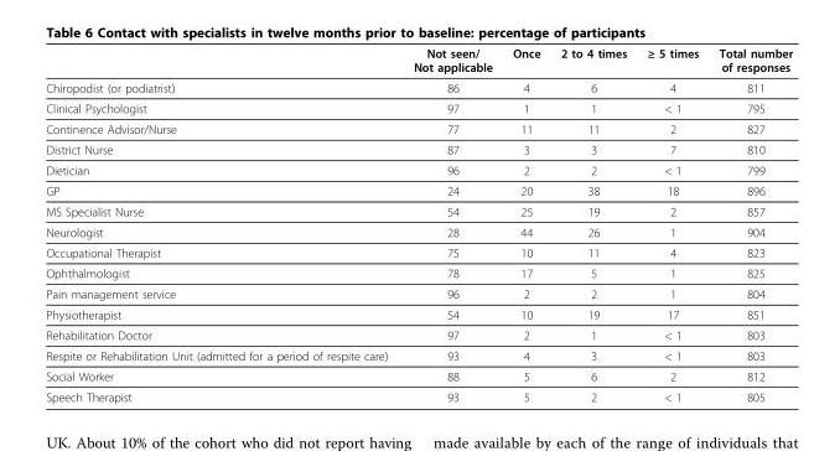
<table><thead><tr><td></td><td>Not seen/ Not applicable</td><td>Once</td><td>2 to 4 times</td><td>≥ 5 times</td><td>Total number of responses</td></tr></thead><tbody><tr><td>Chiropodist (or podiatrist)</td><td>86</td><td>4</td><td>6</td><td>4</td><td>811</td></tr><tr><td>Clinical Psychologist</td><td>97</td><td>1</td><td>1</td><td>&lt; 1</td><td>795</td></tr><tr><td>Continence Advisor/Nurse</td><td>77</td><td>11</td><td>11</td><td>2</td><td>827</td></tr><tr><td>District Nurse</td><td>87</td><td>3</td><td>3</td><td>7</td><td>810</td></tr><tr><td>Dietician</td><td>96</td><td>2</td><td>2</td><td>&lt; 1</td><td>799</td></tr><tr><td>GP</td><td>24</td><td>20</td><td>38</td><td>18</td><td>896</td></tr><tr><td>MS Specialist Nurse</td><td>54</td><td>25</td><td>19</td><td>2</td><td>857</td></tr><tr><td>Neurologist</td><td>28</td><td>44</td><td>26</td><td>1</td><td>904</td></tr><tr><td>Occupational Therapist</td><td>75</td><td>10</td><td>11</td><td>4</td><td>823</td></tr><tr><td>Ophthalmologist</td><td>78</td><td>17</td><td>5</td><td>1</td><td>825</td></tr><tr><td>Pain management service</td><td>96</td><td>2</td><td>2</td><td>1</td><td>804</td></tr><tr><td>Physiotherapist</td><td>54</td><td>10</td><td>19</td><td>17</td><td>851</td></tr><tr><td>Rehabilitation Doctor</td><td>97</td><td>2</td><td>1</td><td>&lt; 1</td><td>803</td></tr><tr><td>Respite or Rehabilitation Unit (admitted for a period of respite care)</td><td>93</td><td>4</td><td>3</td><td>&lt; 1</td><td>803</td></tr><tr><td>Social Worker</td><td>88</td><td>5</td><td>6</td><td>2</td><td>812</td></tr><tr><td>Speech Therapist</td><td>93</td><td>5</td><td>2</td><td>&lt; 1</td><td>805</td></tr></tbody></table>